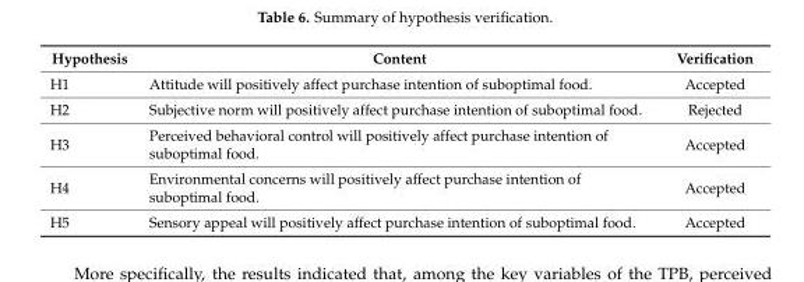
<table><thead><tr><td>Hypothesis</td><td>Content</td><td>Verification</td></tr></thead><tbody><tr><td>H1</td><td>Attitude will positively affect purchase intention of suboptimal food.</td><td>Accepted</td></tr><tr><td>H2</td><td>Subjective norm will positively affect purchase intention of suboptimal food.</td><td>Rejected</td></tr><tr><td>H3</td><td>Perceived behavioral control will positively affect purchase intention of suboptimal food.</td><td>Accepted</td></tr><tr><td>H4</td><td>Environmental concerns will positively affect purchase intention of suboptimal food.</td><td>Accepted</td></tr><tr><td>H5</td><td>Sensory appeal will positively affect purchase intention of suboptimal food.</td><td>Accepted</td></tr></tbody></table>